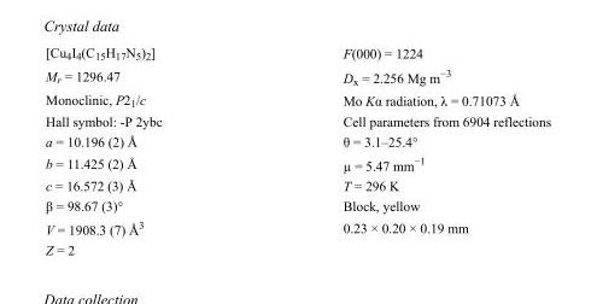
<table><tbody><tr><td>[Cu<sub>4</sub>I<sub>4</sub>(C<sub>15</sub>H<sub>17</sub>N<sub>5</sub>)<sub>2</sub>]</td><td>F(000) = 1224</td></tr><tr><td>M<sub>r</sub> = 1296.47</td><td>D<sub>x</sub> = 2.256 Mg m<sup>−3</sup></td></tr><tr><td>Monoclinic, P2<sub>1</sub>/c</td><td>Mo Kα radiation, λ = 0.71073 Å</td></tr><tr><td>Hall symbol: -P 2ybc</td><td>Cell parameters from 6904 reflections</td></tr><tr><td>a = 10.196 (2) Å</td><td>θ = 3.1–25.4°</td></tr><tr><td>b = 11.425 (2) Å</td><td>µ = 5.47 mm<sup>−1</sup></td></tr><tr><td>c = 16.572 (3) Å</td><td>T = 296 K</td></tr><tr><td>β = 98.67 (3)°</td><td>Block, yellow</td></tr><tr><td>V = 1908.3 (7) Å<sup>3</sup></td><td>0.23 × 0.20 × 0.19 mm</td></tr><tr><td>Z = 2</td><td></td></tr></tbody></table>